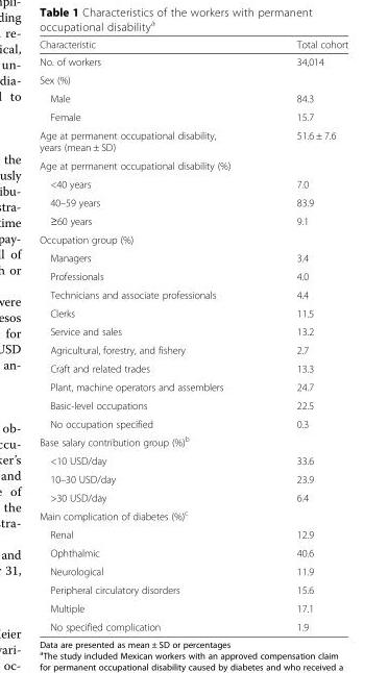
<table><thead><tr><td>Characteristic</td><td>Total cohort</td></tr></thead><tbody><tr><td>No. of workers</td><td>34,014</td></tr><tr><td colspan="2">Sex (%)</td></tr><tr><td>Male</td><td>84.3</td></tr><tr><td>Female</td><td>15.7</td></tr><tr><td>Age at permanent occupational disability, years (mean ± SD)</td><td>51.6 ± 7.6</td></tr><tr><td colspan="2">Age at permanent occupational disability (%)</td></tr><tr><td>&lt;40 years</td><td>7.0</td></tr><tr><td>40–59 years</td><td>83.9</td></tr><tr><td>≥60 years</td><td>9.1</td></tr><tr><td colspan="2">Occupation group (%)</td></tr><tr><td>Managers</td><td>3.4</td></tr><tr><td>Professionals</td><td>4.0</td></tr><tr><td>Technicians and associate professionals</td><td>4.4</td></tr><tr><td>Clerks</td><td>11.5</td></tr><tr><td>Service and sales</td><td>13.2</td></tr><tr><td>Agricultural, forestry, and fishery</td><td>2.7</td></tr><tr><td>Craft and related trades</td><td>13.3</td></tr><tr><td>Plant, machine operators and assemblers</td><td>24.7</td></tr><tr><td>Basic-level occupations</td><td>22.5</td></tr><tr><td>No occupation specified</td><td>0.3</td></tr><tr><td colspan="2">Base salary contribution group (%)<sup>b</sup></td></tr><tr><td>&lt;10 USD/day</td><td>33.6</td></tr><tr><td>10–30 USD/day</td><td>23.9</td></tr><tr><td>&gt;30 USD/day</td><td>6.4</td></tr><tr><td colspan="2">Main complication of diabetes (%)<sup>c</sup></td></tr><tr><td>Renal</td><td>12.9</td></tr><tr><td>Ophthalmic</td><td>40.6</td></tr><tr><td>Neurological</td><td>11.9</td></tr><tr><td>Peripheral circulatory disorders</td><td>15.6</td></tr><tr><td>Multiple</td><td>17.1</td></tr><tr><td>No specified complication</td><td>1.9</td></tr></tbody></table>